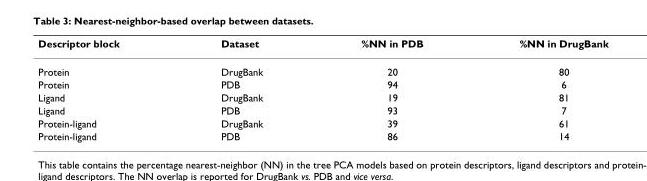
<table><thead><tr><td>Descriptor block</td><td>Dataset</td><td>%NN in PDB</td><td>%NN in DrugBank</td></tr></thead><tbody><tr><td>Protein</td><td>DrugBank</td><td>20</td><td>80</td></tr><tr><td>Protein</td><td>PDB</td><td>94</td><td>6</td></tr><tr><td>Ligand</td><td>DrugBank</td><td>19</td><td>81</td></tr><tr><td>Ligand</td><td>PDB</td><td>93</td><td>7</td></tr><tr><td>Protein-ligand</td><td>DrugBank</td><td>39</td><td>61</td></tr><tr><td>Protein-ligand</td><td>PDB</td><td>86</td><td>14</td></tr></tbody></table>